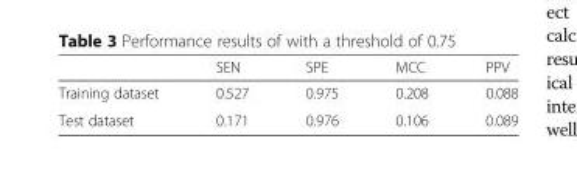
<table><thead><tr><td></td><td>SEN</td><td>SPE</td><td>MCC</td><td>PPV</td></tr></thead><tbody><tr><td>Training dataset</td><td>0.527</td><td>0.975</td><td>0.208</td><td>0.088</td></tr><tr><td>Test dataset</td><td>0.171</td><td>0.976</td><td>0.106</td><td>0.089</td></tr></tbody></table>